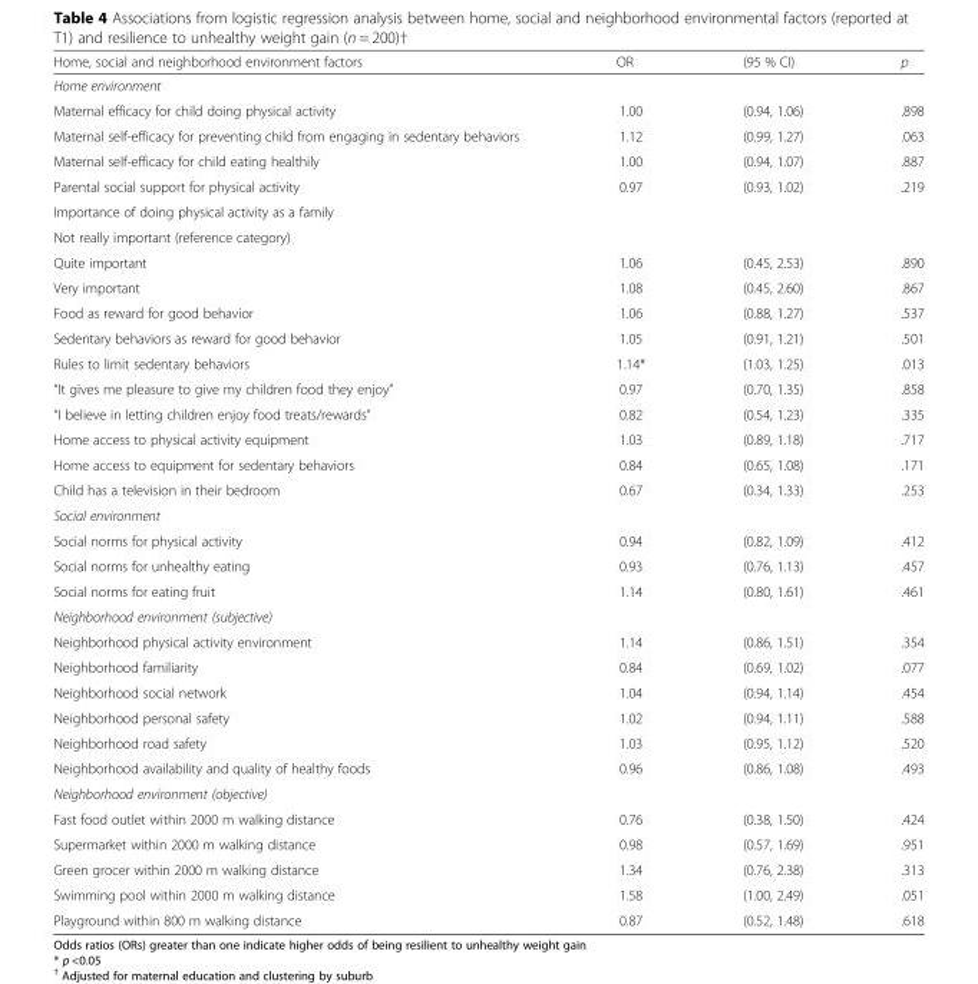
<table><thead><tr><td>Home, social and neighborhood environment factors</td><td>OR</td><td>(95 % CI)</td><td>p</td></tr></thead><tbody><tr><td colspan="4">Home environment</td></tr><tr><td>Maternal efficacy for child doing physical activity</td><td>1.00</td><td>(0.94, 1.06)</td><td>.898</td></tr><tr><td>Maternal self-efficacy for preventing child from engaging in sedentary behaviors</td><td>1.12</td><td>(0.99, 1.27)</td><td>.063</td></tr><tr><td>Maternal self-efficacy for child eating healthily</td><td>1.00</td><td>(0.94, 1.07)</td><td>.887</td></tr><tr><td>Parental social support for physical activity</td><td>0.97</td><td>(0.93, 1.02)</td><td>.219</td></tr><tr><td colspan="4">Importance of doing physical activity as a family</td></tr><tr><td colspan="4">Not really important (reference category)</td></tr><tr><td>Quite important</td><td>1.06</td><td>(0.45, 2.53)</td><td>.890</td></tr><tr><td>Very important</td><td>1.08</td><td>(0.45, 2.60)</td><td>.867</td></tr><tr><td>Food as reward for good behavior</td><td>1.06</td><td>(0.88, 1.27)</td><td>.537</td></tr><tr><td>Sedentary behaviors as reward for good behavior</td><td>1.05</td><td>(0.91, 1.21)</td><td>.501</td></tr><tr><td>Rules to limit sedentary behaviors</td><td>1.14*</td><td>(1.03, 1.25)</td><td>.013</td></tr><tr><td>“It gives me pleasure to give my children food they enjoy”</td><td>0.97</td><td>(0.70, 1.35)</td><td>.858</td></tr><tr><td>“I believe in letting children enjoy food treats/rewards”</td><td>0.82</td><td>(0.54, 1.23)</td><td>.335</td></tr><tr><td>Home access to physical activity equipment</td><td>1.03</td><td>(0.89, 1.18)</td><td>.717</td></tr><tr><td>Home access to equipment for sedentary behaviors</td><td>0.84</td><td>(0.65, 1.08)</td><td>.171</td></tr><tr><td>Child has a television in their bedroom</td><td>0.67</td><td>(0.34, 1.33)</td><td>.253</td></tr><tr><td colspan="4">Social environment</td></tr><tr><td>Social norms for physical activity</td><td>0.94</td><td>(0.82, 1.09)</td><td>.412</td></tr><tr><td>Social norms for unhealthy eating</td><td>0.93</td><td>(0.76, 1.13)</td><td>.457</td></tr><tr><td>Social norms for eating fruit</td><td>1.14</td><td>(0.80, 1.61)</td><td>.461</td></tr><tr><td colspan="4">Neighborhood environment (subjective)</td></tr><tr><td>Neighborhood physical activity environment</td><td>1.14</td><td>(0.86, 1.51)</td><td>.354</td></tr><tr><td>Neighborhood familiarity</td><td>0.84</td><td>(0.69, 1.02)</td><td>.077</td></tr><tr><td>Neighborhood social network</td><td>1.04</td><td>(0.94, 1.14)</td><td>.454</td></tr><tr><td>Neighborhood personal safety</td><td>1.02</td><td>(0.94, 1.11)</td><td>.588</td></tr><tr><td>Neighborhood road safety</td><td>1.03</td><td>(0.95, 1.12)</td><td>.520</td></tr><tr><td>Neighborhood availability and quality of healthy foods</td><td>0.96</td><td>(0.86, 1.08)</td><td>.493</td></tr><tr><td colspan="4">Neighborhood environment (objective)</td></tr><tr><td>Fast food outlet within 2000 m walking distance</td><td>0.76</td><td>(0.38, 1.50)</td><td>.424</td></tr><tr><td>Supermarket within 2000 m walking distance</td><td>0.98</td><td>(0.57, 1.69)</td><td>.951</td></tr><tr><td>Green grocer within 2000 m walking distance</td><td>1.34</td><td>(0.76, 2.38)</td><td>.313</td></tr><tr><td>Swimming pool within 2000 m walking distance</td><td>1.58</td><td>(1.00, 2.49)</td><td>.051</td></tr><tr><td>Playground within 800 m walking distance</td><td>0.87</td><td>(0.52, 1.48)</td><td>.618</td></tr></tbody></table>